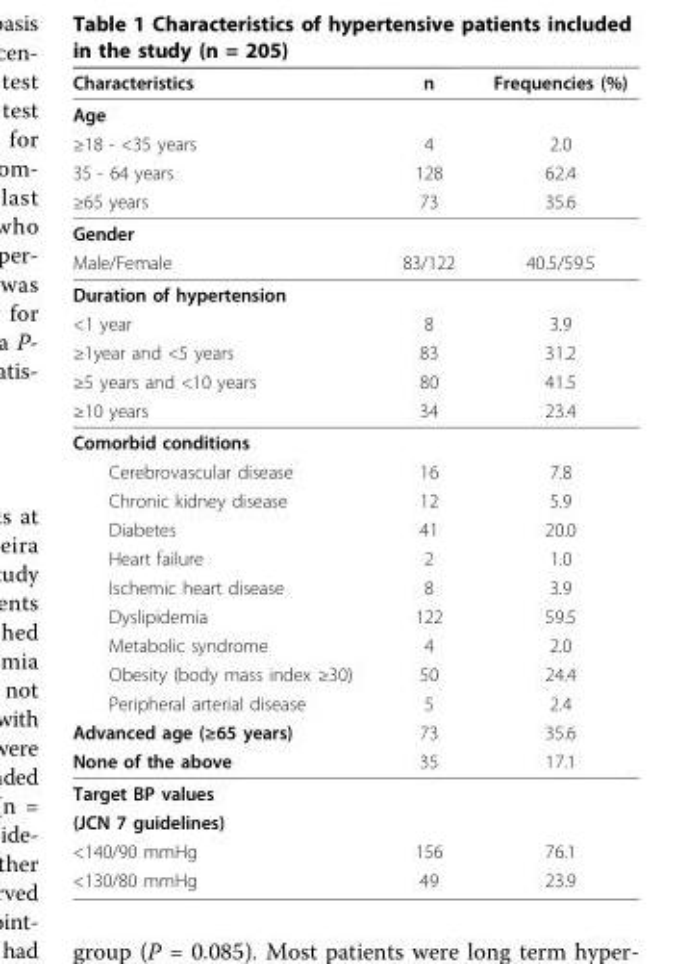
<table><thead><tr><td>Characteristics</td><td>n</td><td>Frequencies (%)</td></tr></thead><tbody><tr><td colspan="3">Age</td></tr><tr><td>≥18 - &lt;35 years</td><td>4</td><td>2.0</td></tr><tr><td>35 - 64 years</td><td>128</td><td>62.4</td></tr><tr><td>≥65 years</td><td>73</td><td>35.6</td></tr><tr><td colspan="3">Gender</td></tr><tr><td>Male/Female</td><td>83/122</td><td>40.5/59.5</td></tr><tr><td colspan="3">Duration of hypertension</td></tr><tr><td>&lt;1 year</td><td>8</td><td>3.9</td></tr><tr><td>≥1year and &lt;5 years</td><td>83</td><td>31.2</td></tr><tr><td>≥5 years and &lt;10 years</td><td>80</td><td>41.5</td></tr><tr><td>≥10 years</td><td>34</td><td>23.4</td></tr><tr><td colspan="3">Comorbid conditions</td></tr><tr><td>Cerebrovascular disease</td><td>16</td><td>7.8</td></tr><tr><td>Chronic kidney disease</td><td>12</td><td>5.9</td></tr><tr><td>Diabetes</td><td>41</td><td>20.0</td></tr><tr><td>Heart failure</td><td>2</td><td>1.0</td></tr><tr><td>Ischemic heart disease</td><td>8</td><td>3.9</td></tr><tr><td>Dyslipidemia</td><td>122</td><td>59.5</td></tr><tr><td>Metabolic syndrome</td><td>4</td><td>2.0</td></tr><tr><td>Obesity (body mass index ≥30)</td><td>50</td><td>24.4</td></tr><tr><td>Peripheral arterial disease</td><td>5</td><td>2.4</td></tr><tr><td>Advanced age (≥65 years)</td><td>73</td><td>35.6</td></tr><tr><td>None of the above</td><td>35</td><td>17.1</td></tr><tr><td colspan="3">Target BP values</td></tr><tr><td colspan="3">(JCN 7 guidelines)</td></tr><tr><td>&lt;140/90 mmHg</td><td>156</td><td>76.1</td></tr><tr><td>&lt;130/80 mmHg</td><td>49</td><td>23.9</td></tr></tbody></table>